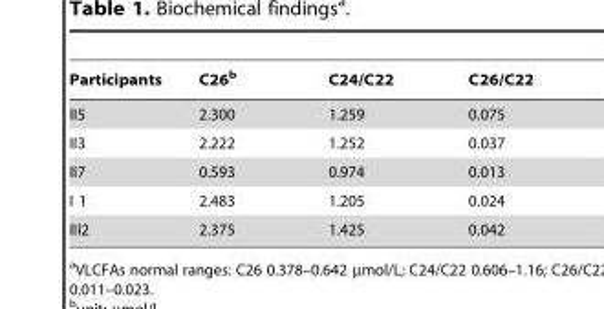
<table><thead><tr><td>Participants</td><td>C26<sup>b</sup></td><td>C24/C22</td><td>C26/C22</td></tr></thead><tbody><tr><td>II5</td><td>2.300</td><td>1.259</td><td>0.075</td></tr><tr><td>II3</td><td>2.222</td><td>1.252</td><td>0.037</td></tr><tr><td>II7</td><td>0.593</td><td>0.974</td><td>0.013</td></tr><tr><td>I 1</td><td>2.483</td><td>1.205</td><td>0.024</td></tr><tr><td>III2</td><td>2.375</td><td>1.425</td><td>0.042</td></tr></tbody></table>